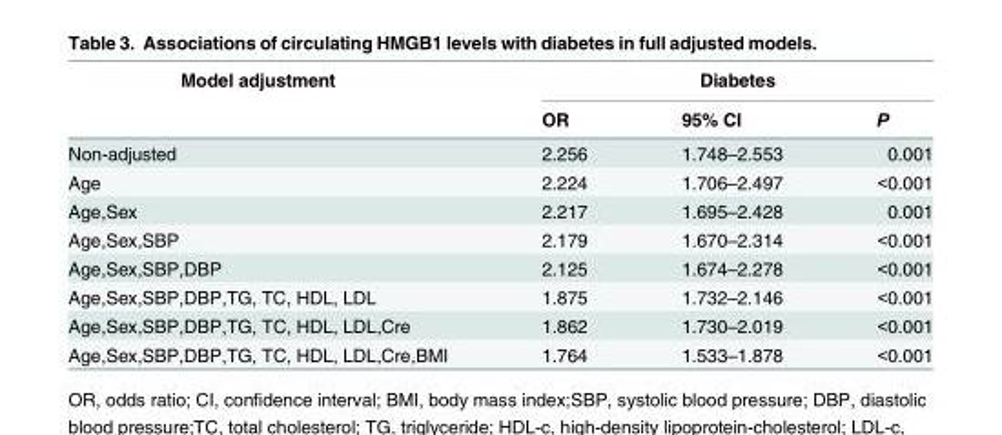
<table><thead><tr><td rowspan="2">Model adjustment</td><td colspan="3">Diabetes</td></tr><tr><td>OR</td><td>95% CI</td><td>P</td></tr></thead><tbody><tr><td>Non-adjusted</td><td>2.256</td><td>1.748–2.553</td><td>0.001</td></tr><tr><td>Age</td><td>2.224</td><td>1.706–2.497</td><td>&lt;0.001</td></tr><tr><td>Age,Sex</td><td>2.217</td><td>1.695–2.428</td><td>0.001</td></tr><tr><td>Age,Sex,SBP</td><td>2.179</td><td>1.670–2.314</td><td>&lt;0.001</td></tr><tr><td>Age,Sex,SBP,DBP</td><td>2.125</td><td>1.674–2.278</td><td>&lt;0.001</td></tr><tr><td>Age,Sex,SBP,DBP,TG, TC, HDL, LDL</td><td>1.875</td><td>1.732–2.146</td><td>&lt;0.001</td></tr><tr><td>Age,Sex,SBP,DBP,TG, TC, HDL, LDL,Cre</td><td>1.862</td><td>1.730–2.019</td><td>&lt;0.001</td></tr><tr><td>Age,Sex,SBP,DBP,TG, TC, HDL, LDL,Cre,BMI</td><td>1.764</td><td>1.533–1.878</td><td>&lt;0.001</td></tr></tbody></table>